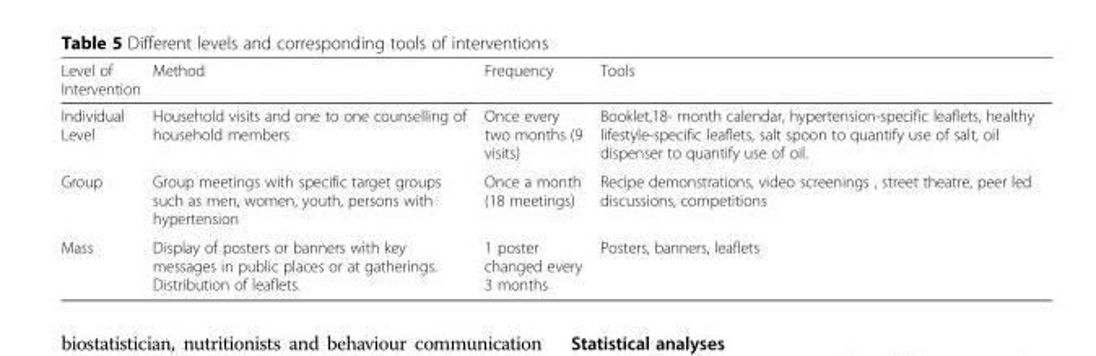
<table><thead><tr><td>Level of Intervention</td><td>Method</td><td>Frequency</td><td>Tools</td></tr></thead><tbody><tr><td>Individual Level</td><td>Household visits and one to one counselling of household members</td><td>Once every two months (9 visits)</td><td>Booklet,18- month calendar, hypertension-specific leaflets, healthy lifestyle-specific leaflets, salt spoon to quantify use of salt, oil dispenser to quantify use of oil.</td></tr><tr><td>Group</td><td>Group meetings with specific target groups such as men, women, youth, persons with hypertension</td><td>Once a month (18 meetings)</td><td>Recipe demonstrations, video screenings , street theatre, peer led discussions, competitions</td></tr><tr><td>Mass</td><td>Display of posters or banners with key messages in public places or at gatherings. Distribution of leaflets.</td><td>1 poster changed every 3 months</td><td>Posters, banners, leaflets</td></tr></tbody></table>